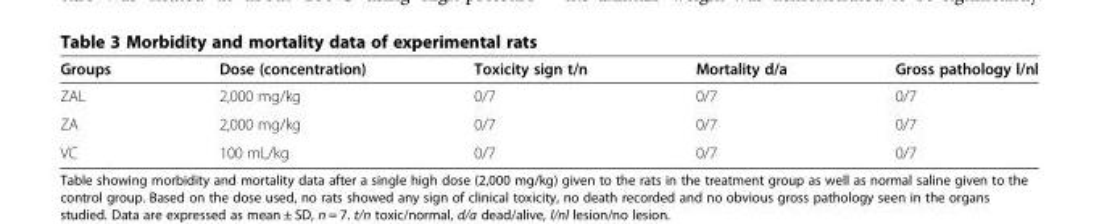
<table><thead><tr><td>Groups</td><td>Dose (concentration)</td><td>Toxicity sign t/n</td><td>Mortality d/a</td><td>Gross pathology l/nl</td></tr></thead><tbody><tr><td>ZAL</td><td>2,000 mg/kg</td><td>0/7</td><td>0/7</td><td>0/7</td></tr><tr><td>ZA</td><td>2,000 mg/kg</td><td>0/7</td><td>0/7</td><td>0/7</td></tr><tr><td>VC</td><td>100 mL/kg</td><td>0/7</td><td>0/7</td><td>0/7</td></tr></tbody></table>